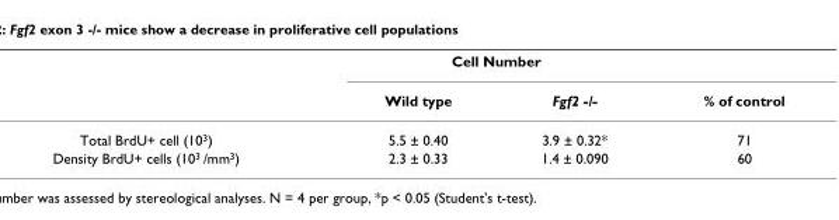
<table><thead><tr><td rowspan="2"></td><td colspan="2">Cell Number</td><td rowspan="2">% of control</td></tr><tr><td>Wild type</td><td>Fgf2 -/-</td></tr></thead><tbody><tr><td>Total BrdU+ cell (10<sup>3</sup>)</td><td>5.5 ± 0.40</td><td>3.9 ± 0.32*</td><td>71</td></tr><tr><td>Density BrdU+ cells (10<sup>3</sup> /mm<sup>3</sup>)</td><td>2.3 ± 0.33</td><td>1.4 ± 0.090</td><td>60</td></tr></tbody></table>